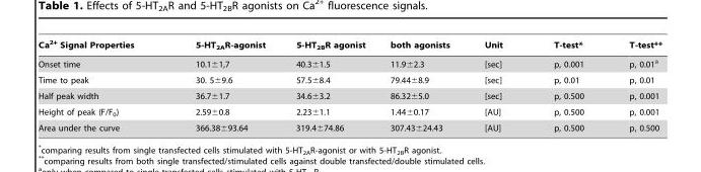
<table><thead><tr><td>Ca<sup>2+</sup> Signal Properties</td><td>5-HT<sub>2A</sub>R-agonist</td><td>5-HT<sub>2B</sub>R agonist</td><td>both agonists</td><td>Unit</td><td>T-test*</td><td>T-test**</td></tr></thead><tbody><tr><td>Onset time</td><td>10.1±1,7</td><td>40.3±1.5</td><td>11.9±2.3</td><td>[sec]</td><td>p, 0.001</td><td>p, 0.01<sup>a</sup></td></tr><tr><td>Time to peak</td><td>30. 5±9.6</td><td>57.5±8.4</td><td>79.44±8.9</td><td>[sec]</td><td>p, 0.01</td><td>p, 0.01</td></tr><tr><td>Half peak width</td><td>36.7±1.7</td><td>34.6±3.2</td><td>86.32±5.0</td><td>[sec]</td><td>p, 0.500</td><td>p, 0.001</td></tr><tr><td>Height of peak (F/F<sub>0</sub>)</td><td>2.59±0.8</td><td>2.23±1.1</td><td>1.44±0.17</td><td>[AU]</td><td>p, 0.500</td><td>p, 0.001</td></tr><tr><td>Area under the curve</td><td>366.38±93.64</td><td>319.4±74.86</td><td>307.43±24.43</td><td>[AU]</td><td>p, 0.500</td><td>p, 0.500</td></tr></tbody></table>